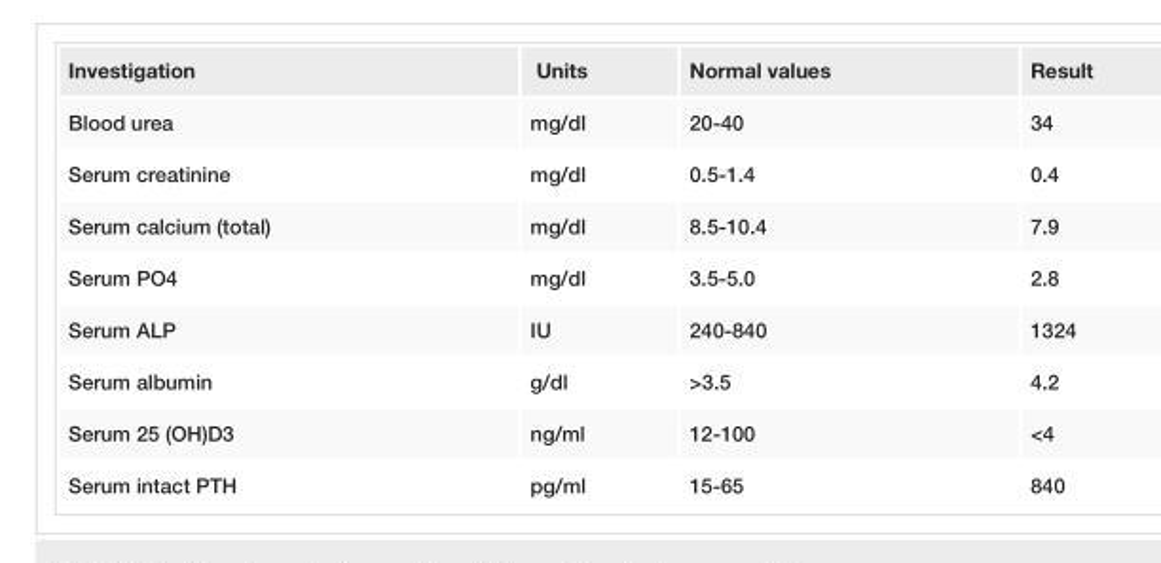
<table><tbody><tr><td>Investigation</td><td>Units</td><td>Normal values</td><td>Result</td></tr><tr><td>Blood urea</td><td>mg/dl</td><td>20-40</td><td>34</td></tr><tr><td>Serum creatinine</td><td>mg/dl</td><td>0.5-1.4</td><td>0.4</td></tr><tr><td>Serum calcium (total)</td><td>mg/dl</td><td>8.5-10.4</td><td>7.9</td></tr><tr><td>Serum PO4</td><td>mg/dl</td><td>3.5-5.0</td><td>2.8</td></tr><tr><td>Serum ALP</td><td>IU</td><td>240-840</td><td>1324</td></tr><tr><td>Serum albumin</td><td>g/dl</td><td>&gt;3.5</td><td>4.2</td></tr><tr><td>Serum 25 (OH)D3</td><td>ng/ml</td><td>12-100</td><td>&lt;4</td></tr><tr><td>Serum intact PTH</td><td>pg/ml</td><td>15-65</td><td>840</td></tr></tbody></table>